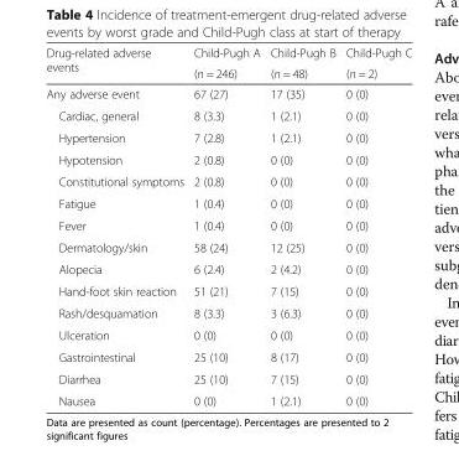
<table><thead><tr><td rowspan="2">Drug-related adverse events</td><td rowspan="2">Child-Pugh A (n = 246)</td><td rowspan="2">Child-Pugh B (n = 48)</td><td rowspan="2">Child-Pugh C (n = 2)</td></tr><tr></tr></thead><tbody><tr><td>Any adverse event</td><td>67 (27)</td><td>17 (35)</td><td>0 (0)</td></tr><tr><td>Cardiac, general</td><td>8 (3.3)</td><td>1 (2.1)</td><td>0 (0)</td></tr><tr><td>Hypertension</td><td>7 (2.8)</td><td>1 (2.1)</td><td>0 (0)</td></tr><tr><td>Hypotension</td><td>2 (0.8)</td><td>0 (0)</td><td>0 (0)</td></tr><tr><td>Constitutional symptoms</td><td>2 (0.8)</td><td>0 (0)</td><td>0 (0)</td></tr><tr><td>Fatigue</td><td>1 (0.4)</td><td>0 (0)</td><td>0 (0)</td></tr><tr><td>Fever</td><td>1 (0.4)</td><td>0 (0)</td><td>0 (0)</td></tr><tr><td>Dermatology/skin</td><td>58 (24)</td><td>12 (25)</td><td>0 (0)</td></tr><tr><td>Alopecia</td><td>6 (2.4)</td><td>2 (4.2)</td><td>0 (0)</td></tr><tr><td>Hand-foot skin reaction</td><td>51 (21)</td><td>7 (15)</td><td>0 (0)</td></tr><tr><td>Rash/desquamation</td><td>8 (3.3)</td><td>3 (6.3)</td><td>0 (0)</td></tr><tr><td>Ulceration</td><td>0 (0)</td><td>0 (0)</td><td>0 (0)</td></tr><tr><td>Gastrointestinal</td><td>25 (10)</td><td>8 (17)</td><td>0 (0)</td></tr><tr><td>Diarrhea</td><td>25 (10)</td><td>7 (15)</td><td>0 (0)</td></tr><tr><td>Nausea</td><td>0 (0)</td><td>1 (2.1)</td><td>0 (0)</td></tr></tbody></table>